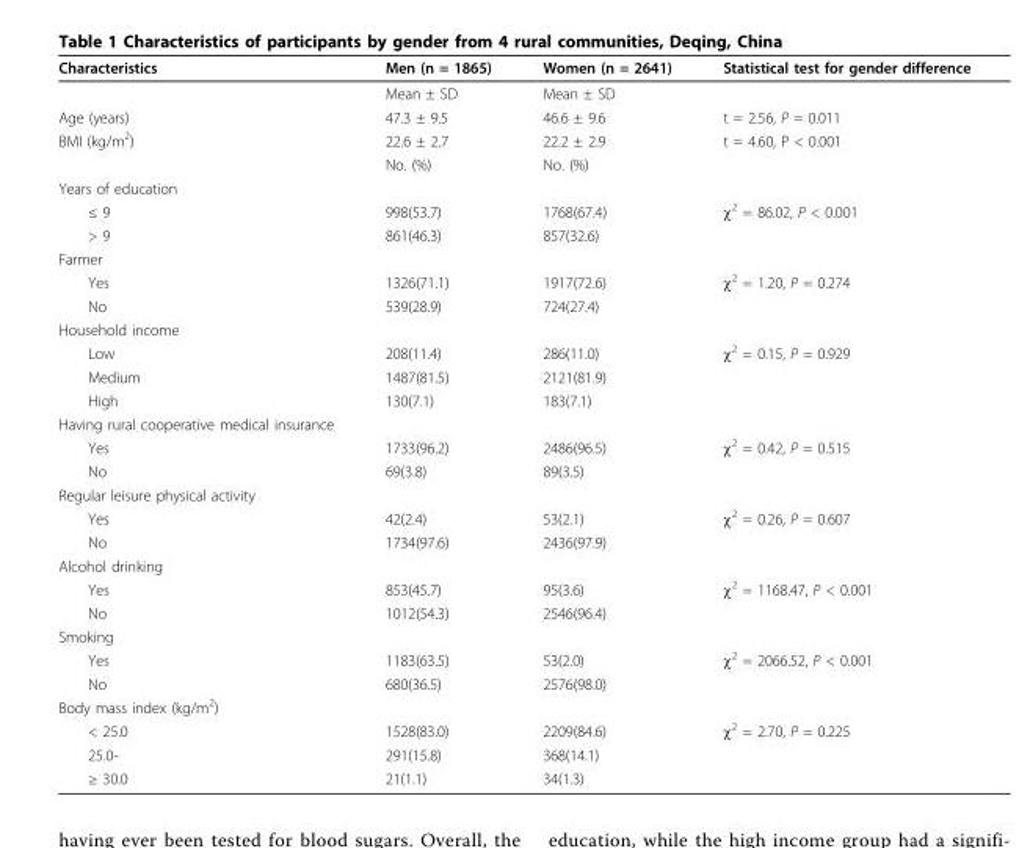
<table><thead><tr><td>Characteristics</td><td>Men (n = 1865)</td><td>Women (n = 2641)</td><td>Statistical test for gender difference</td></tr></thead><tbody><tr><td></td><td>Mean ± SD</td><td>Mean ± SD</td><td></td></tr><tr><td>Age (years)</td><td>47.3 ± 9.5</td><td>46.6 ± 9.6</td><td>t = 2.56, P = 0.011</td></tr><tr><td rowspan="2">BMI (kg/m<sup>2</sup>)</td><td>22.6 ± 2.7</td><td>22.2 ± 2.9</td><td>t = 4.60, P &lt; 0.001</td></tr><tr><td>No. (%)</td><td>No. (%)</td><td></td></tr><tr><td colspan="4">Years of education</td></tr><tr><td>≤ 9</td><td>998(53.7)</td><td>1768(67.4)</td><td>χ<sup>2</sup> = 86.02, P &lt; 0.001</td></tr><tr><td>&gt; 9</td><td>861(46.3)</td><td>857(32.6)</td><td></td></tr><tr><td colspan="4">Farmer</td></tr><tr><td>Yes</td><td>1326(71.1)</td><td>1917(72.6)</td><td>χ<sup>2</sup> = 1.20, P = 0.274</td></tr><tr><td>No</td><td>539(28.9)</td><td>724(27.4)</td><td></td></tr><tr><td colspan="4">Household income</td></tr><tr><td>Low</td><td>208(11.4)</td><td>286(11.0)</td><td>χ<sup>2</sup> = 0.15, P = 0.929</td></tr><tr><td>Medium</td><td>1487(81.5)</td><td>2121(81.9)</td><td></td></tr><tr><td>High</td><td>130(7.1)</td><td>183(7.1)</td><td></td></tr><tr><td colspan="4">Having rural cooperative medical insurance</td></tr><tr><td>Yes</td><td>1733(96.2)</td><td>2486(96.5)</td><td>χ<sup>2</sup> = 0.42, P = 0.515</td></tr><tr><td>No</td><td>69(3.8)</td><td>89(3.5)</td><td></td></tr><tr><td colspan="4">Regular leisure physical activity</td></tr><tr><td>Yes</td><td>42(2.4)</td><td>53(2.1)</td><td>χ<sup>2</sup> = 0.26, P = 0.607</td></tr><tr><td>No</td><td>1734(97.6)</td><td>2436(97.9)</td><td></td></tr><tr><td colspan="4">Alcohol drinking</td></tr><tr><td>Yes</td><td>853(45.7)</td><td>95(3.6)</td><td>χ<sup>2</sup> = 1168.47, P &lt; 0.001</td></tr><tr><td>No</td><td>1012(54.3)</td><td>2546(96.4)</td><td></td></tr><tr><td colspan="4">Smoking</td></tr><tr><td>Yes</td><td>1183(63.5)</td><td>53(2.0)</td><td>χ<sup>2</sup> = 2066.52, P &lt; 0.001</td></tr><tr><td>No</td><td>680(36.5)</td><td>2576(98.0)</td><td></td></tr><tr><td colspan="4">Body mass index (kg/m<sup>2</sup>)</td></tr><tr><td>&lt; 25.0</td><td>1528(83.0)</td><td>2209(84.6)</td><td>χ<sup>2</sup> = 2.70, P = 0.225</td></tr><tr><td>25.0-</td><td>291(15.8)</td><td>368(14.1)</td><td></td></tr><tr><td>≥ 30.0</td><td>21(1.1)</td><td>34(1.3)</td><td></td></tr></tbody></table>